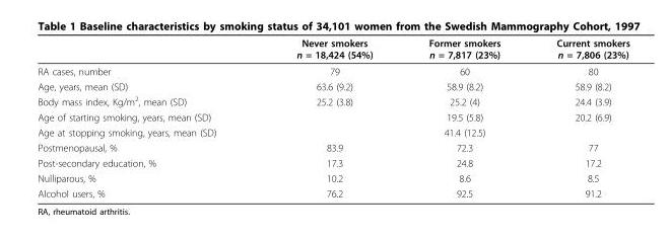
<table><thead><tr><td></td><td>Never smokers n = 18,424 (54%)</td><td>Former smokers n = 7,817 (23%)</td><td>Current smokers n = 7,806 (23%)</td></tr></thead><tbody><tr><td>RA cases, number</td><td>79</td><td>60</td><td>80</td></tr><tr><td>Age, years, mean (SD)</td><td>63.6 (9.2)</td><td>58.9 (8.2)</td><td>58.9 (8.2)</td></tr><tr><td>Body mass index, Kg/m<sup>2</sup>, mean (SD)</td><td>25.2 (3.8)</td><td>25.2 (4)</td><td>24.4 (3.9)</td></tr><tr><td>Age of starting smoking, years, mean (SD)</td><td></td><td>19.5 (5.8)</td><td>20.2 (6.9)</td></tr><tr><td>Age at stopping smoking, years, mean (SD)</td><td></td><td>41.4 (12.5)</td><td></td></tr><tr><td>Postmenopausal, %</td><td>83.9</td><td>72.3</td><td>77</td></tr><tr><td>Post-secondary education, %</td><td>17.3</td><td>24.8</td><td>17.2</td></tr><tr><td>Nulliparous, %</td><td>10.2</td><td>8.6</td><td>8.5</td></tr><tr><td>Alcohol users, %</td><td>76.2</td><td>92.5</td><td>91.2</td></tr></tbody></table>